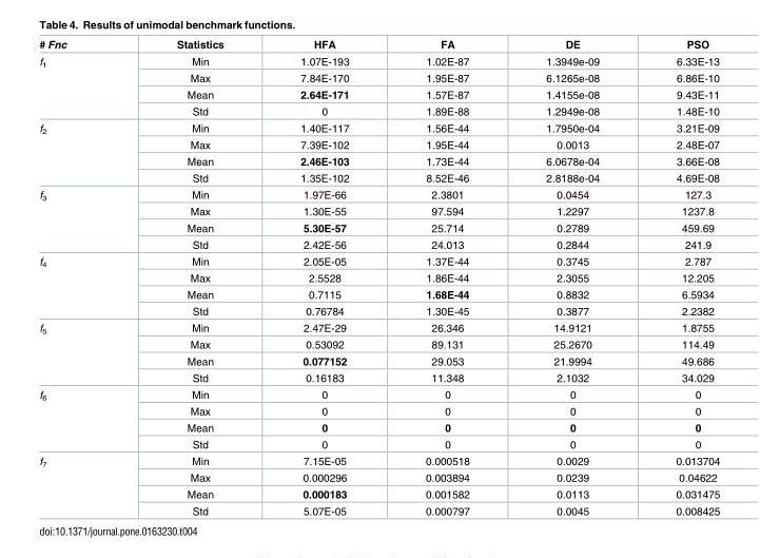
<table><thead><tr><td># Fnc</td><td>Statistics</td><td>HFA</td><td>FA</td><td>DE</td><td>PSO</td></tr></thead><tbody><tr><td rowspan="4">f<sub>1</sub></td><td>Min</td><td>1.07E-193</td><td>1.02E-87</td><td>1.3949e-09</td><td>6.33E-13</td></tr><tr><td>Max</td><td>7.84E-170</td><td>1.95E-87</td><td>6.1265e-08</td><td>6.86E-10</td></tr><tr><td>Mean</td><td>2.64E-171</td><td>1.57E-87</td><td>1.4155e-08</td><td>9.43E-11</td></tr><tr><td>Std</td><td>0</td><td>1.89E-88</td><td>1.2949e-08</td><td>1.48E-10</td></tr><tr><td rowspan="4">f<sub>2</sub></td><td>Min</td><td>1.40E-117</td><td>1.56E-44</td><td>1.7950e-04</td><td>3.21E-09</td></tr><tr><td>Max</td><td>7.39E-102</td><td>1.95E-44</td><td>0.0013</td><td>2.48E-07</td></tr><tr><td>Mean</td><td>2.46E-103</td><td>1.73E-44</td><td>6.0678e-04</td><td>3.66E-08</td></tr><tr><td>Std</td><td>1.35E-102</td><td>8.52E-46</td><td>2.8188e-04</td><td>4.69E-08</td></tr><tr><td rowspan="4">f<sub>3</sub></td><td>Min</td><td>1.97E-66</td><td>2.3801</td><td>0.0454</td><td>127.3</td></tr><tr><td>Max</td><td>1.30E-55</td><td>97.594</td><td>1.2297</td><td>1237.8</td></tr><tr><td>Mean</td><td>5.30E-57</td><td>25.714</td><td>0.2789</td><td>459.69</td></tr><tr><td>Std</td><td>2.42E-56</td><td>24.013</td><td>0.2844</td><td>241.9</td></tr><tr><td rowspan="4">f<sub>4</sub></td><td>Min</td><td>2.05E-05</td><td>1.37E-44</td><td>0.3745</td><td>2.787</td></tr><tr><td>Max</td><td>2.5528</td><td>1.86E-44</td><td>2.3055</td><td>12.205</td></tr><tr><td>Mean</td><td>0.7115</td><td>1.68E-44</td><td>0.8832</td><td>6.5934</td></tr><tr><td>Std</td><td>0.76784</td><td>1.30E-45</td><td>0.3877</td><td>2.2382</td></tr><tr><td rowspan="4">f<sub>5</sub></td><td>Min</td><td>2.47E-29</td><td>26.346</td><td>14.9121</td><td>1.8755</td></tr><tr><td>Max</td><td>0.53092</td><td>89.131</td><td>25.2670</td><td>114.49</td></tr><tr><td>Mean</td><td>0.077152</td><td>29.053</td><td>21.9994</td><td>49.686</td></tr><tr><td>Std</td><td>0.16183</td><td>11.348</td><td>2.1032</td><td>34.029</td></tr><tr><td rowspan="4">f<sub>6</sub></td><td>Min</td><td>0</td><td>0</td><td>0</td><td>0</td></tr><tr><td>Max</td><td>0</td><td>0</td><td>0</td><td>0</td></tr><tr><td>Mean</td><td>0</td><td>0</td><td>0</td><td>0</td></tr><tr><td>Std</td><td>0</td><td>0</td><td>0</td><td>0</td></tr><tr><td rowspan="4">f<sub>7</sub></td><td>Min</td><td>7.15E-05</td><td>0.000518</td><td>0.0029</td><td>0.013704</td></tr><tr><td>Max</td><td>0.000296</td><td>0.003894</td><td>0.0239</td><td>0.04622</td></tr><tr><td>Mean</td><td>0.000183</td><td>0.001582</td><td>0.0113</td><td>0.031475</td></tr><tr><td>Std</td><td>5.07E-05</td><td>0.000797</td><td>0.0045</td><td>0.008425</td></tr></tbody></table>